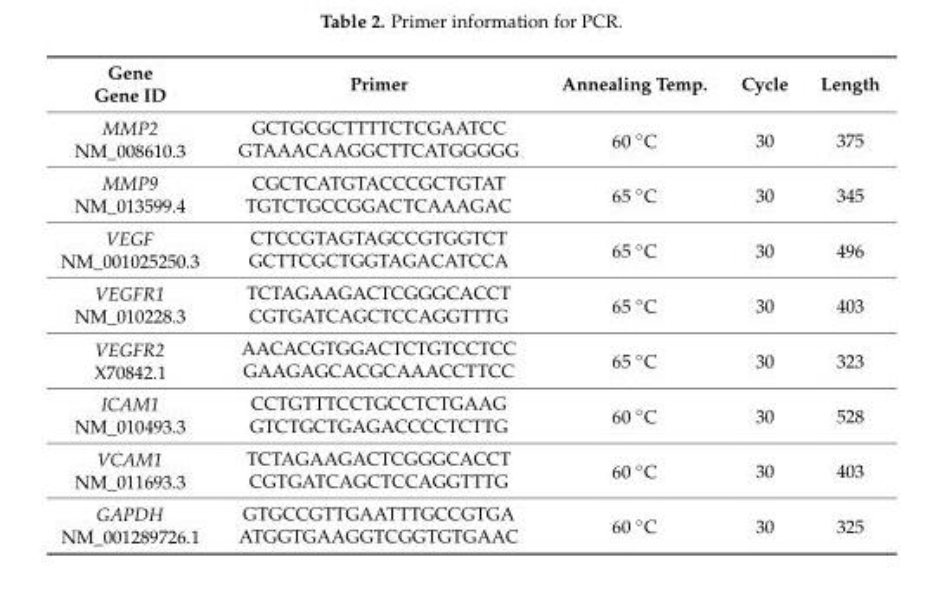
<table><thead><tr><td>Gene Gene ID</td><td>Primer</td><td>Annealing Temp.</td><td>Cycle</td><td>Length</td></tr></thead><tbody><tr><td rowspan="2">MMP2 NM_008610.3</td><td>GCTGCGCTTTTCTCGAATCC</td><td rowspan="2">60 ◦C</td><td rowspan="2">30</td><td rowspan="2">375</td></tr><tr><td>GTAAACAAGGCTTCATGGGGG</td></tr><tr><td rowspan="2">MMP9 NM_013599.4</td><td>CGCTCATGTACCCGCTGTAT</td><td rowspan="2">65 ◦C</td><td rowspan="2">30</td><td rowspan="2">345</td></tr><tr><td>TGTCTGCCGGACTCAAAGAC</td></tr><tr><td rowspan="2">VEGF NM_001025250.3</td><td>CTCCGTAGTAGCCGTGGTCT</td><td rowspan="2">65 ◦C</td><td rowspan="2">30</td><td rowspan="2">496</td></tr><tr><td>GCTTCGCTGGTAGACATCCA</td></tr><tr><td rowspan="2">VEGFR1 NM_010228.3</td><td>TCTAGAAGACTCGGGCACCT</td><td rowspan="2">65 ◦C</td><td rowspan="2">30</td><td rowspan="2">403</td></tr><tr><td>CGTGATCAGCTCCAGGTTTG</td></tr><tr><td rowspan="2">VEGFR2 X70842.1</td><td>AACACGTGGACTCTGTCCTCC</td><td rowspan="2">65 ◦C</td><td rowspan="2">30</td><td rowspan="2">323</td></tr><tr><td>GAAGAGCACGCAAACCTTCC</td></tr><tr><td rowspan="2">ICAM1 NM_010493.3</td><td>CCTGTTTCCTGCCTCTGAAG</td><td rowspan="2">60 ◦C</td><td rowspan="2">30</td><td rowspan="2">528</td></tr><tr><td>GTCTGCTGAGACCCCTCTTG</td></tr><tr><td rowspan="2">VCAM1 NM_011693.3</td><td>TCTAGAAGACTCGGGCACCT</td><td rowspan="2">60 ◦C</td><td rowspan="2">30</td><td rowspan="2">403</td></tr><tr><td>CGTGATCAGCTCCAGGTTTG</td></tr><tr><td rowspan="2">GAPDH NM_001289726.1</td><td>GTGCCGTTGAATTTGCCGTGA</td><td rowspan="2">60 ◦C</td><td rowspan="2">30</td><td rowspan="2">325</td></tr><tr><td>ATGGTGAAGGTCGGTGTGAAC</td></tr></tbody></table>